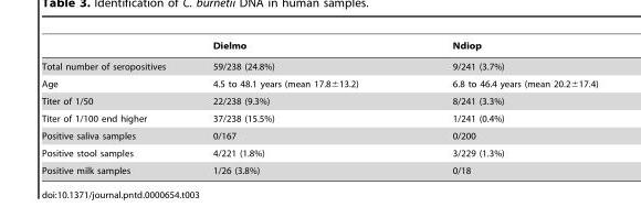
<table><thead><tr><td></td><td>Dielmo</td><td>Ndiop</td></tr></thead><tbody><tr><td>Total number of seropositives</td><td>59/238 (24.8%)</td><td>9/241 (3.7%)</td></tr><tr><td>Age</td><td>4.5 to 48.1 years (mean 17.8±13.2)</td><td>6.8 to 46.4 years (mean 20.2±17.4)</td></tr><tr><td>Titer of 1/50</td><td>22/238 (9.3%)</td><td>8/241 (3.3%)</td></tr><tr><td>Titer of 1/100 end higher</td><td>37/238 (15.5%)</td><td>1/241 (0.4%)</td></tr><tr><td>Positive saliva samples</td><td>0/167</td><td>0/200</td></tr><tr><td>Positive stool samples</td><td>4/221 (1.8%)</td><td>3/229 (1.3%)</td></tr><tr><td>Positive milk samples</td><td>1/26 (3.8%)</td><td>0/18</td></tr></tbody></table>